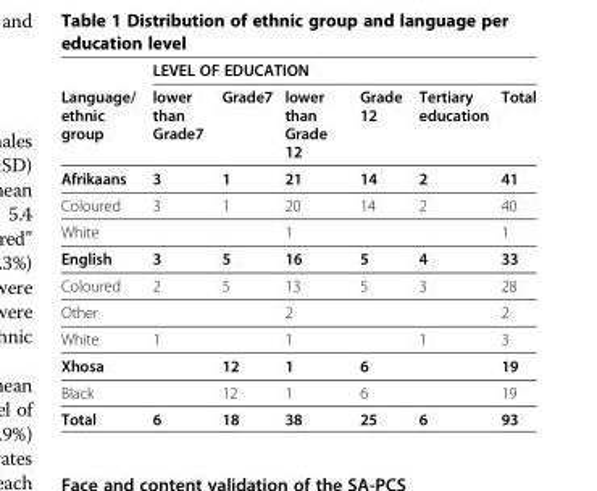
<table><thead><tr><td rowspan="2">Language/ ethnic group</td><td colspan="6">LEVEL OF EDUCATION</td></tr><tr><td>lower than Grade7</td><td>Grade7</td><td>lower than Grade 12</td><td>Grade 12</td><td>Tertiary education</td><td>Total</td></tr></thead><tbody><tr><td>Afrikaans</td><td>3</td><td>1</td><td>21</td><td>14</td><td>2</td><td>41</td></tr><tr><td>Coloured</td><td>3</td><td>1</td><td>20</td><td>14</td><td>2</td><td>40</td></tr><tr><td>White</td><td></td><td></td><td>1</td><td></td><td></td><td>1</td></tr><tr><td>English</td><td>3</td><td>5</td><td>16</td><td>5</td><td>4</td><td>33</td></tr><tr><td>Coloured</td><td>2</td><td>5</td><td>13</td><td>5</td><td>3</td><td>28</td></tr><tr><td>Other</td><td></td><td></td><td>2</td><td></td><td></td><td>2</td></tr><tr><td>White</td><td>1</td><td></td><td>1</td><td></td><td>1</td><td>3</td></tr><tr><td>Xhosa</td><td></td><td>12</td><td>1</td><td>6</td><td></td><td>19</td></tr><tr><td>Black</td><td></td><td>12</td><td>1</td><td>6</td><td></td><td>19</td></tr><tr><td>Total</td><td>6</td><td>18</td><td>38</td><td>25</td><td>6</td><td>93</td></tr></tbody></table>